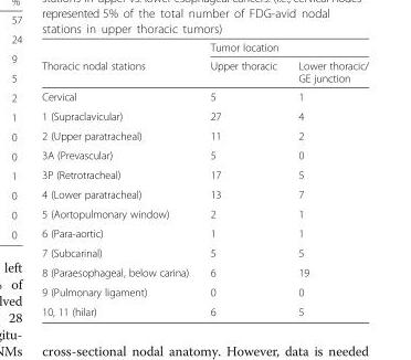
<table><thead><tr><td rowspan="2">Thoracic nodal stations</td><td colspan="2">Tumor location</td></tr><tr><td>Upper thoracic</td><td>Lower thoracic/ GE junction</td></tr></thead><tbody><tr><td>Cervical</td><td>5</td><td>1</td></tr><tr><td>1 (Supraclavicular)</td><td>27</td><td>4</td></tr><tr><td>2 (Upper paratracheal)</td><td>11</td><td>2</td></tr><tr><td>3A (Prevascular)</td><td>5</td><td>0</td></tr><tr><td>3P (Retrotracheal)</td><td>17</td><td>5</td></tr><tr><td>4 (Lower paratracheal)</td><td>13</td><td>7</td></tr><tr><td>5 (Aortopulmonary window)</td><td>2</td><td>1</td></tr><tr><td>6 (Para-aortic)</td><td>1</td><td>1</td></tr><tr><td>7 (Subcarinal)</td><td>5</td><td>5</td></tr><tr><td>8 (Paraesophageal, below carina)</td><td>6</td><td>19</td></tr><tr><td>9 (Pulmonary ligament)</td><td>0</td><td>0</td></tr><tr><td>10, 11 (hilar)</td><td>6</td><td>5</td></tr></tbody></table>